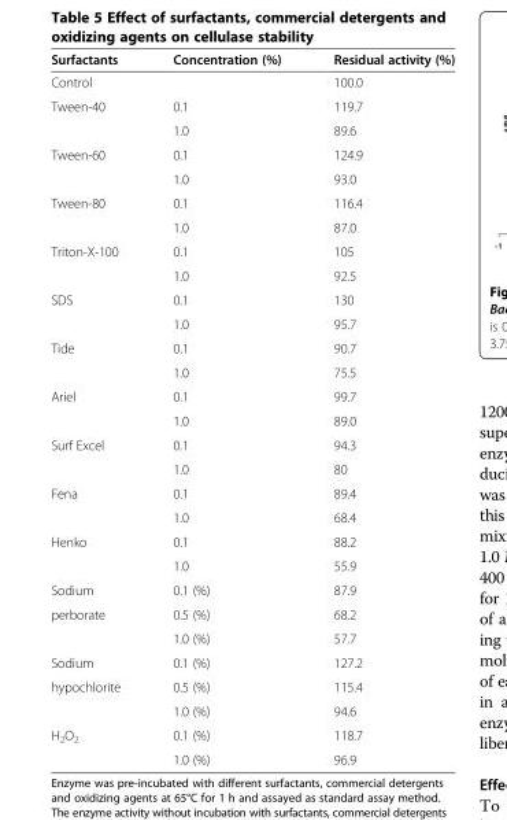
<table><thead><tr><td>Surfactants</td><td>Concentration (%)</td><td>Residual activity (%)</td></tr></thead><tbody><tr><td>Control</td><td></td><td>100.0</td></tr><tr><td rowspan="2">Tween-40</td><td>0.1</td><td>119.7</td></tr><tr><td>1.0</td><td>89.6</td></tr><tr><td rowspan="2">Tween-60</td><td>0.1</td><td>124.9</td></tr><tr><td>1.0</td><td>93.0</td></tr><tr><td rowspan="2">Tween-80</td><td>0.1</td><td>116.4</td></tr><tr><td>1.0</td><td>87.0</td></tr><tr><td rowspan="2">Triton-X-100</td><td>0.1</td><td>105</td></tr><tr><td>1.0</td><td>92.5</td></tr><tr><td rowspan="2">SDS</td><td>0.1</td><td>130</td></tr><tr><td>1.0</td><td>95.7</td></tr><tr><td rowspan="2">Tide</td><td>0.1</td><td>90.7</td></tr><tr><td>1.0</td><td>75.5</td></tr><tr><td rowspan="2">Ariel</td><td>0.1</td><td>99.7</td></tr><tr><td>1.0</td><td>89.0</td></tr><tr><td rowspan="2">Surf Excel</td><td>0.1</td><td>94.3</td></tr><tr><td>1.0</td><td>80</td></tr><tr><td rowspan="2">Fena</td><td>0.1</td><td>89.4</td></tr><tr><td>1.0</td><td>68.4</td></tr><tr><td rowspan="2">Henko</td><td>0.1</td><td>88.2</td></tr><tr><td>1.0</td><td>55.9</td></tr><tr><td>Sodium</td><td>0.1 (%)</td><td>87.9</td></tr><tr><td rowspan="2">perborate</td><td>0.5 (%)</td><td>68.2</td></tr><tr><td>1.0 (%)</td><td>57.7</td></tr><tr><td>Sodium</td><td>0.1 (%)</td><td>127.2</td></tr><tr><td rowspan="2">hypochlorite</td><td>0.5 (%)</td><td>115.4</td></tr><tr><td>1.0 (%)</td><td>94.6</td></tr><tr><td rowspan="2">H<sub>2</sub>O<sub>2</sub></td><td>0.1 (%)</td><td>118.7</td></tr><tr><td>1.0 (%)</td><td>96.9</td></tr></tbody></table>